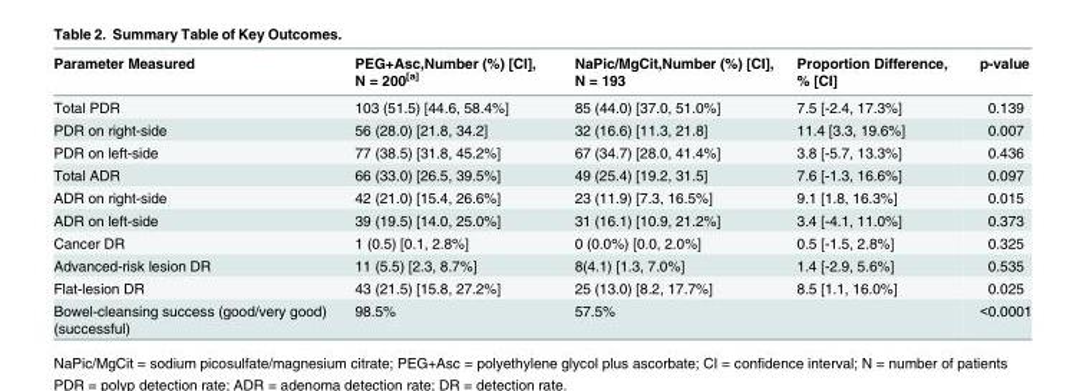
<table><thead><tr><td>Parameter Measured</td><td>PEG+Asc,Number (%) [CI], N = 200<sup>[a]</sup></td><td>NaPic/MgCit,Number (%) [CI], N = 193</td><td>Proportion Difference, % [CI]</td><td>p-value</td></tr></thead><tbody><tr><td>Total PDR</td><td>103 (51.5) [44.6, 58.4%]</td><td>85 (44.0) [37.0, 51.0%]</td><td>7.5 [-2.4, 17.3%]</td><td>0.139</td></tr><tr><td>PDR on right-side</td><td>56 (28.0) [21.8, 34.2]</td><td>32 (16.6) [11.3, 21.8]</td><td>11.4 [3.3, 19.6%]</td><td>0.007</td></tr><tr><td>PDR on left-side</td><td>77 (38.5) [31.8, 45.2%]</td><td>67 (34.7) [28.0, 41.4%]</td><td>3.8 [-5.7, 13.3%]</td><td>0.436</td></tr><tr><td>Total ADR</td><td>66 (33.0) [26.5, 39.5%]</td><td>49 (25.4) [19.2, 31.5]</td><td>7.6 [-1.3, 16.6%]</td><td>0.097</td></tr><tr><td>ADR on right-side</td><td>42 (21.0) [15.4, 26.6%]</td><td>23 (11.9) [7.3, 16.5%]</td><td>9.1 [1.8, 16.3%]</td><td>0.015</td></tr><tr><td>ADR on left-side</td><td>39 (19.5) [14.0, 25.0%]</td><td>31 (16.1) [10.9, 21.2%]</td><td>3.4 [-4.1, 11.0%]</td><td>0.373</td></tr><tr><td>Cancer DR</td><td>1 (0.5) [0.1, 2.8%]</td><td>0 (0.0%) [0.0, 2.0%]</td><td>0.5 [-1.5, 2.8%]</td><td>0.325</td></tr><tr><td>Advanced-risk lesion DR</td><td>11 (5.5) [2.3, 8.7%]</td><td>8(4.1) [1.3, 7.0%]</td><td>1.4 [-2.9, 5.6%]</td><td>0.535</td></tr><tr><td>Flat-lesion DR</td><td>43 (21.5) [15.8, 27.2%]</td><td>25 (13.0) [8.2, 17.7%]</td><td>8.5 [1.1, 16.0%]</td><td>0.025</td></tr><tr><td>Bowel-cleansing success (good/very good) (successful)</td><td>98.5%</td><td>57.5%</td><td></td><td>&lt;0.0001</td></tr></tbody></table>